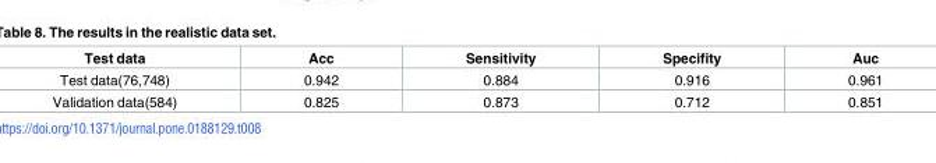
<table><thead><tr><td>Test data</td><td>Acc</td><td>Sensitivity</td><td>Specifity</td><td>Auc</td></tr></thead><tbody><tr><td>Test data(76,748)</td><td>0.942</td><td>0.884</td><td>0.916</td><td>0.961</td></tr><tr><td>Validation data(584)</td><td>0.825</td><td>0.873</td><td>0.712</td><td>0.851</td></tr></tbody></table>